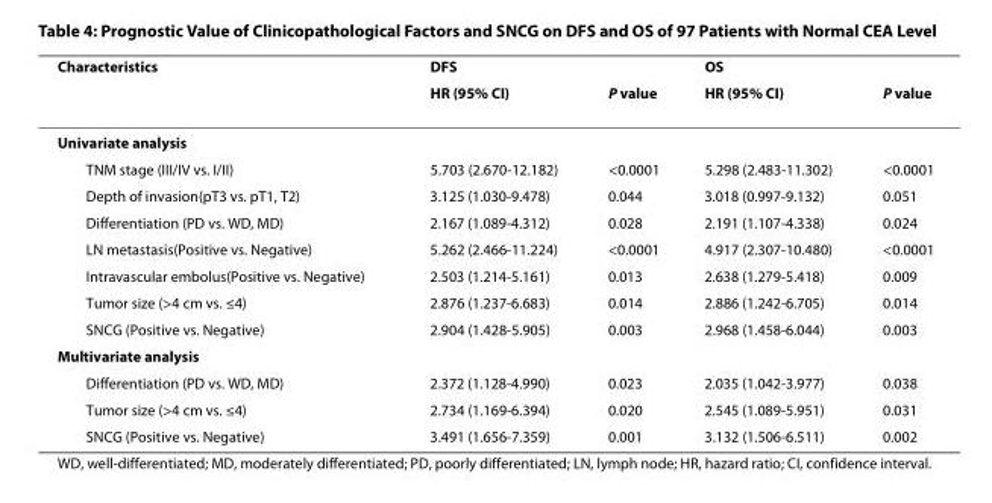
<table><thead><tr><td rowspan="2">Characteristics</td><td colspan="2">DFS</td><td colspan="2">OS</td></tr><tr><td>HR (95% CI)</td><td>P value</td><td>HR (95% CI)</td><td>P value</td></tr></thead><tbody><tr><td colspan="5">Univariate analysis</td></tr><tr><td>TNM stage (III/IV vs. I/II)</td><td>5.703 (2.670-12.182)</td><td>&lt;0.0001</td><td>5.298 (2.483-11.302)</td><td>&lt;0.0001</td></tr><tr><td>Depth of invasion(pT3 vs. pT1, T2)</td><td>3.125 (1.030-9.478)</td><td>0.044</td><td>3.018 (0.997-9.132)</td><td>0.051</td></tr><tr><td>Differentiation (PD vs. WD, MD)</td><td>2.167 (1.089-4.312)</td><td>0.028</td><td>2.191 (1.107-4.338)</td><td>0.024</td></tr><tr><td>LN metastasis(Positive vs. Negative)</td><td>5.262 (2.466-11.224)</td><td>&lt;0.0001</td><td>4.917 (2.307-10.480)</td><td>&lt;0.0001</td></tr><tr><td>Intravascular embolus(Positive vs. Negative)</td><td>2.503 (1.214-5.161)</td><td>0.013</td><td>2.638 (1.279-5.418)</td><td>0.009</td></tr><tr><td>Tumor size (&gt;4 cm vs. ≤4)</td><td>2.876 (1.237-6.683)</td><td>0.014</td><td>2.886 (1.242-6.705)</td><td>0.014</td></tr><tr><td>SNCG (Positive vs. Negative)</td><td>2.904 (1.428-5.905)</td><td>0.003</td><td>2.968 (1.458-6.044)</td><td>0.003</td></tr><tr><td colspan="5">Multivariate analysis</td></tr><tr><td>Differentiation (PD vs. WD, MD)</td><td>2.372 (1.128-4.990)</td><td>0.023</td><td>2.035 (1.042-3.977)</td><td>0.038</td></tr><tr><td>Tumor size (&gt;4 cm vs. ≤4)</td><td>2.734 (1.169-6.394)</td><td>0.020</td><td>2.545 (1.089-5.951)</td><td>0.031</td></tr><tr><td>SNCG (Positive vs. Negative)</td><td>3.491 (1.656-7.359)</td><td>0.001</td><td>3.132 (1.506-6.511)</td><td>0.002</td></tr></tbody></table>